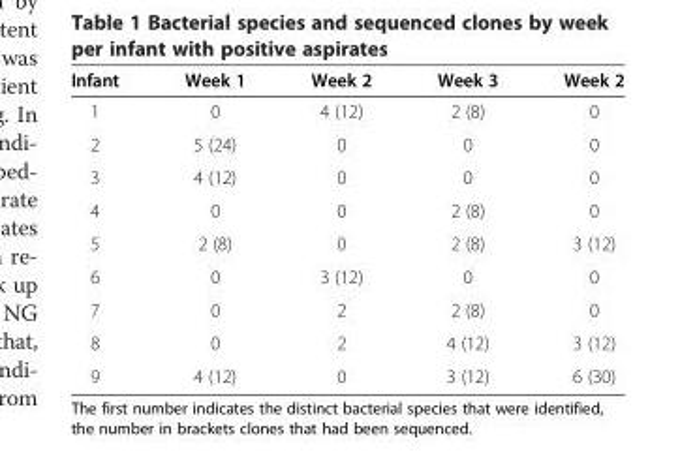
<table><thead><tr><td>Infant</td><td>Week 1</td><td>Week 2</td><td>Week 3</td><td>Week 2</td></tr></thead><tbody><tr><td>1</td><td>0</td><td>4 (12)</td><td>2 (8)</td><td>0</td></tr><tr><td>2</td><td>5 (24)</td><td>0</td><td>0</td><td>0</td></tr><tr><td>3</td><td>4 (12)</td><td>0</td><td>0</td><td>0</td></tr><tr><td>4</td><td>0</td><td>0</td><td>2 (8)</td><td>0</td></tr><tr><td>5</td><td>2 (8)</td><td>0</td><td>2 (8)</td><td>3 (12)</td></tr><tr><td>6</td><td>0</td><td>3 (12)</td><td>0</td><td>0</td></tr><tr><td>7</td><td>0</td><td>2</td><td>2 (8)</td><td>0</td></tr><tr><td>8</td><td>0</td><td>2</td><td>4 (12)</td><td>3 (12)</td></tr><tr><td>9</td><td>4 (12)</td><td>0</td><td>3 (12)</td><td>6 (30)</td></tr></tbody></table>